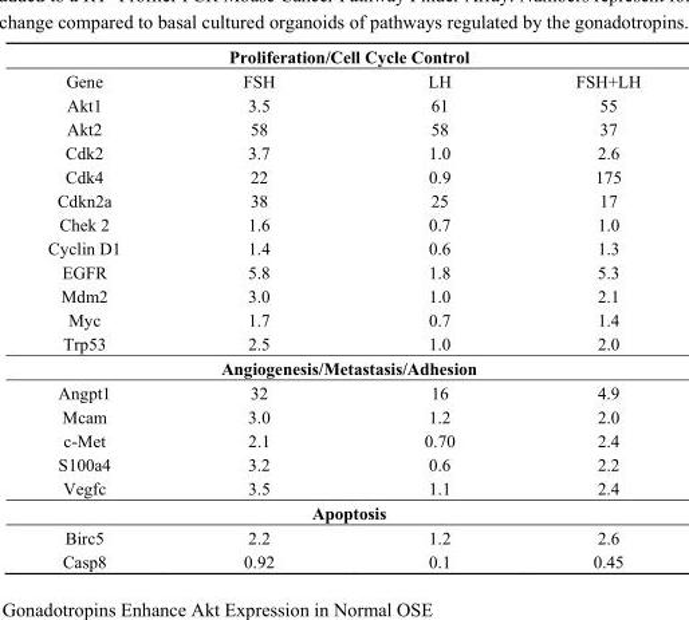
<table><thead><tr><td colspan="4">Proliferation/Cell Cycle Control</td></tr><tr><td>Gene</td><td>FSH</td><td>LH</td><td>FSH+LH</td></tr></thead><tbody><tr><td>Akt1</td><td>3.5</td><td>61</td><td>55</td></tr><tr><td>Akt2</td><td>58</td><td>58</td><td>37</td></tr><tr><td>Cdk2</td><td>3.7</td><td>1.0</td><td>2.6</td></tr><tr><td>Cdk4</td><td>22</td><td>0.9</td><td>175</td></tr><tr><td>Cdkn2a</td><td>38</td><td>25</td><td>17</td></tr><tr><td>Chek 2</td><td>1.6</td><td>0.7</td><td>1.0</td></tr><tr><td>Cyclin D1</td><td>1.4</td><td>0.6</td><td>1.3</td></tr><tr><td>EGFR</td><td>5.8</td><td>1.8</td><td>5.3</td></tr><tr><td>Mdm2</td><td>3.0</td><td>1.0</td><td>2.1</td></tr><tr><td>Myc</td><td>1.7</td><td>0.7</td><td>1.4</td></tr><tr><td>Trp53</td><td>2.5</td><td>1.0</td><td>2.0</td></tr><tr><td colspan="4">Angiogenesis/Metastasis/Adhesion</td></tr><tr><td>Angpt1</td><td>32</td><td>16</td><td>4.9</td></tr><tr><td>Mcam</td><td>3.0</td><td>1.2</td><td>2.0</td></tr><tr><td>c-Met</td><td>2.1</td><td>0.70</td><td>2.4</td></tr><tr><td>S100a4</td><td>3.2</td><td>0.6</td><td>2.2</td></tr><tr><td>Vegfc</td><td>3.5</td><td>1.1</td><td>2.4</td></tr><tr><td colspan="4">Apoptosis</td></tr><tr><td>Birc5</td><td>2.2</td><td>1.2</td><td>2.6</td></tr><tr><td>Casp8</td><td>0.92</td><td>0.1</td><td>0.45</td></tr></tbody></table>